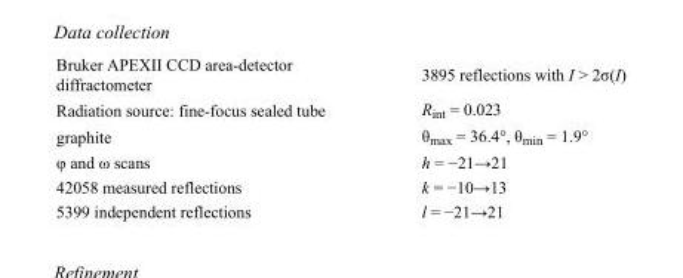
<table><tbody><tr><td>Bruker APEXII CCD area-detector diffractometer</td><td>3895 reflections with I &gt; 2σ(I)</td></tr><tr><td>Radiation source: fine-focus sealed tube</td><td>R<sub>int</sub> = 0.023</td></tr><tr><td>graphite</td><td>θ<sub>max</sub> = 36.4°, θ<sub>min</sub> = 1.9°</td></tr><tr><td>φ and ω scans</td><td>h = −21→21</td></tr><tr><td>42058 measured reflections</td><td>k = −10→13</td></tr><tr><td>5399 independent reflections</td><td>l = −21→21</td></tr></tbody></table>